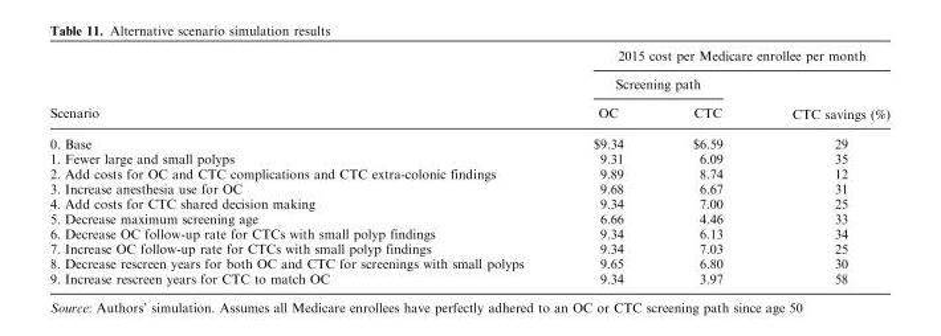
<table><thead><tr><td rowspan="3">Scenario</td><td colspan="3">2015 cost per Medicare enrollee per month</td></tr><tr><td colspan="2">Screening path</td><td rowspan="2">CTC savings (%)</td></tr><tr><td>OC</td><td>CTC</td></tr></thead><tbody><tr><td>0. Base</td><td>$9.34</td><td>$6.59</td><td>29</td></tr><tr><td>1. Fewer large and small polyps</td><td>9.31</td><td>6.09</td><td>35</td></tr><tr><td>2. Add costs for OC and CTC complications and CTC extra-colonic findings</td><td>9.89</td><td>8.74</td><td>12</td></tr><tr><td>3. Increase anesthesia use for OC</td><td>9.68</td><td>6.67</td><td>31</td></tr><tr><td>4. Add costs for CTC shared decision making</td><td>9.34</td><td>7.00</td><td>25</td></tr><tr><td>5. Decrease maximum screening age</td><td>6.66</td><td>4.46</td><td>33</td></tr><tr><td>6. Decrease OC follow-up rate for CTCs with small polyp findings</td><td>9.34</td><td>6.13</td><td>34</td></tr><tr><td>7. Increase OC follow-up rate for CTCs with small polyp findings</td><td>9.34</td><td>7.03</td><td>25</td></tr><tr><td>8. Decrease rescreen years for both OC and CTC for screenings with small polyps</td><td>9.65</td><td>6.80</td><td>30</td></tr><tr><td>9. Increase rescreen years for CTC to match OC</td><td>9.34</td><td>3.97</td><td>58</td></tr></tbody></table>